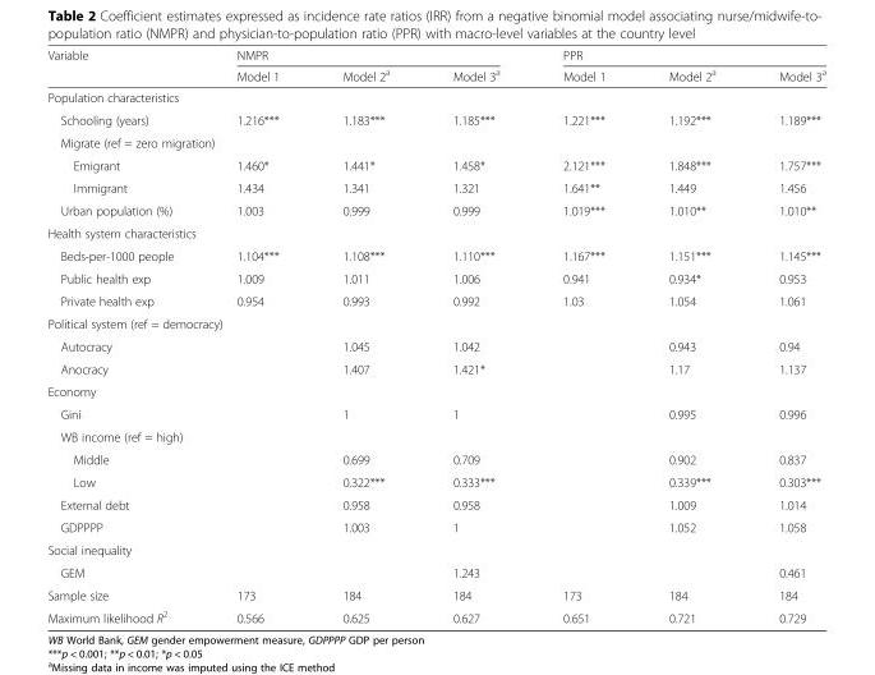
<table><thead><tr><td rowspan="2">Variable</td><td colspan="3">NMPR</td><td colspan="3">PPR</td></tr><tr><td>Model 1</td><td>Model 2<sup>a</sup></td><td>Model 3<sup>a</sup></td><td>Model 1</td><td>Model 2<sup>a</sup></td><td>Model 3<sup>a</sup></td></tr></thead><tbody><tr><td colspan="7">Population characteristics</td></tr><tr><td>Schooling (years)</td><td>1.216***</td><td>1.183***</td><td>1.185***</td><td>1.221***</td><td>1.192***</td><td>1.189***</td></tr><tr><td colspan="7">Migrate (ref = zero migration)</td></tr><tr><td>Emigrant</td><td>1.460*</td><td>1.441*</td><td>1.458*</td><td>2.121***</td><td>1.848***</td><td>1.757***</td></tr><tr><td>Immigrant</td><td>1.434</td><td>1.341</td><td>1.321</td><td>1.641**</td><td>1.449</td><td>1.456</td></tr><tr><td>Urban population (%)</td><td>1.003</td><td>0.999</td><td>0.999</td><td>1.019***</td><td>1.010**</td><td>1.010**</td></tr><tr><td colspan="7">Health system characteristics</td></tr><tr><td>Beds-per-1000 people</td><td>1.104***</td><td>1.108***</td><td>1.110***</td><td>1.167***</td><td>1.151***</td><td>1.145***</td></tr><tr><td>Public health exp</td><td>1.009</td><td>1.011</td><td>1.006</td><td>0.941</td><td>0.934*</td><td>0.953</td></tr><tr><td>Private health exp</td><td>0.954</td><td>0.993</td><td>0.992</td><td>1.03</td><td>1.054</td><td>1.061</td></tr><tr><td colspan="7">Political system (ref = democracy)</td></tr><tr><td>Autocracy</td><td></td><td>1.045</td><td>1.042</td><td></td><td>0.943</td><td>0.94</td></tr><tr><td>Anocracy</td><td></td><td>1.407</td><td>1.421*</td><td></td><td>1.17</td><td>1.137</td></tr><tr><td colspan="7">Economy</td></tr><tr><td>Gini</td><td></td><td>1</td><td>1</td><td></td><td>0.995</td><td>0.996</td></tr><tr><td colspan="7">WB income (ref = high)</td></tr><tr><td>Middle</td><td></td><td>0.699</td><td>0.709</td><td></td><td>0.902</td><td>0.837</td></tr><tr><td>Low</td><td></td><td>0.322***</td><td>0.333***</td><td></td><td>0.339***</td><td>0.303***</td></tr><tr><td>External debt</td><td></td><td>0.958</td><td>0.958</td><td></td><td>1.009</td><td>1.014</td></tr><tr><td>GDPPPP</td><td></td><td>1.003</td><td>1</td><td></td><td>1.052</td><td>1.058</td></tr><tr><td colspan="7">Social inequality</td></tr><tr><td>GEM</td><td></td><td></td><td>1.243</td><td></td><td></td><td>0.461</td></tr><tr><td>Sample size</td><td>173</td><td>184</td><td>184</td><td>173</td><td>184</td><td>184</td></tr><tr><td>Maximum likelihood R<sup>2</sup></td><td>0.566</td><td>0.625</td><td>0.627</td><td>0.651</td><td>0.721</td><td>0.729</td></tr></tbody></table>